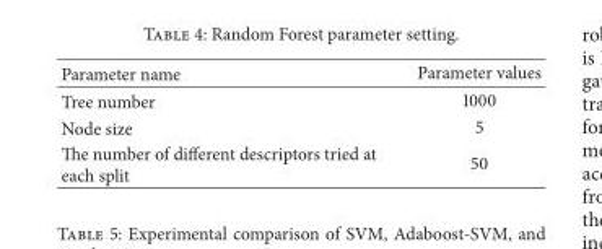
<table><thead><tr><td>Parameter name</td><td>Parameter values</td></tr></thead><tbody><tr><td>Tree number</td><td>1000</td></tr><tr><td>Node size</td><td>5</td></tr><tr><td>The number of different descriptors tried at each split</td><td>50</td></tr></tbody></table>